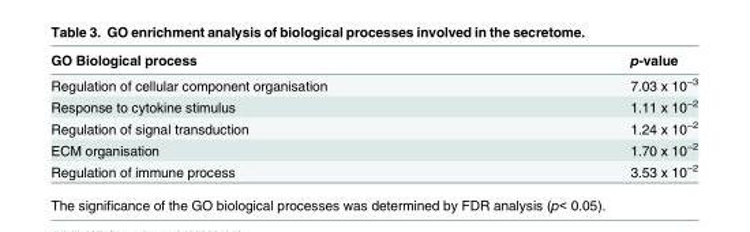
<table><thead><tr><td>GO Biological process</td><td>p-value</td></tr></thead><tbody><tr><td>Regulation of cellular component organisation</td><td>7.03 x 10<sup>−3</sup></td></tr><tr><td>Response to cytokine stimulus</td><td>1.11 x 10<sup>−2</sup></td></tr><tr><td>Regulation of signal transduction</td><td>1.24 x 10<sup>−2</sup></td></tr><tr><td>ECM organisation</td><td>1.70 x 10<sup>−2</sup></td></tr><tr><td>Regulation of immune process</td><td>3.53 x 10<sup>−2</sup></td></tr></tbody></table>